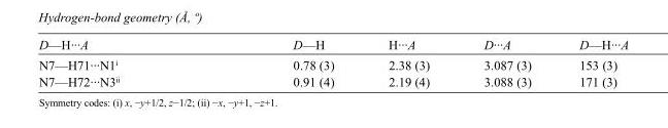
<table><tbody><tr><td>D—H···A</td><td>D—H</td><td>H···A</td><td>D···A</td><td>D—H···A</td></tr><tr><td>N7—H71···N1<sup>i</sup></td><td>0.78 (3)</td><td>2.38 (3)</td><td>3.087 (3)</td><td>153 (3)</td></tr><tr><td>N7—H72···N3<sup>ii</sup></td><td>0.91 (4)</td><td>2.19 (4)</td><td>3.088 (3)</td><td>171 (3)</td></tr></tbody></table>